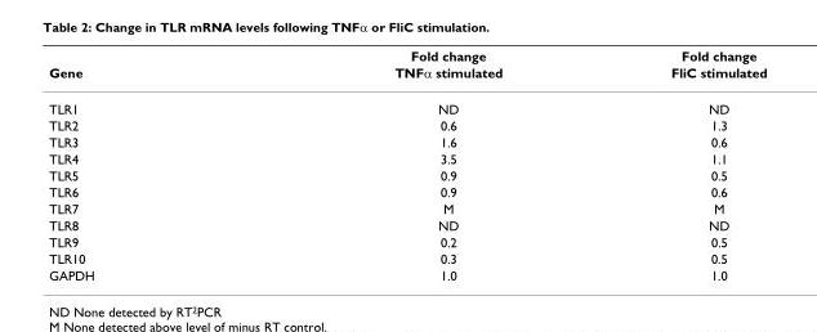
<table><thead><tr><td rowspan="2">Gene</td><td rowspan="2">Fold change TNFα stimulated</td><td rowspan="2">Fold change FliC stimulated</td></tr><tr></tr></thead><tbody><tr><td>TLR1</td><td>ND</td><td>ND</td></tr><tr><td>TLR2</td><td>0.6</td><td>1.3</td></tr><tr><td>TLR3</td><td>1.6</td><td>0.6</td></tr><tr><td>TLR4</td><td>3.5</td><td>1.1</td></tr><tr><td>TLR5</td><td>0.9</td><td>0.5</td></tr><tr><td>TLR6</td><td>0.9</td><td>0.6</td></tr><tr><td>TLR7</td><td>M</td><td>M</td></tr><tr><td>TLR8</td><td>ND</td><td>ND</td></tr><tr><td>TLR9</td><td>0.2</td><td>0.5</td></tr><tr><td>TLR10</td><td>0.3</td><td>0.5</td></tr><tr><td>GAPDH</td><td>1.0</td><td>1.0</td></tr></tbody></table>